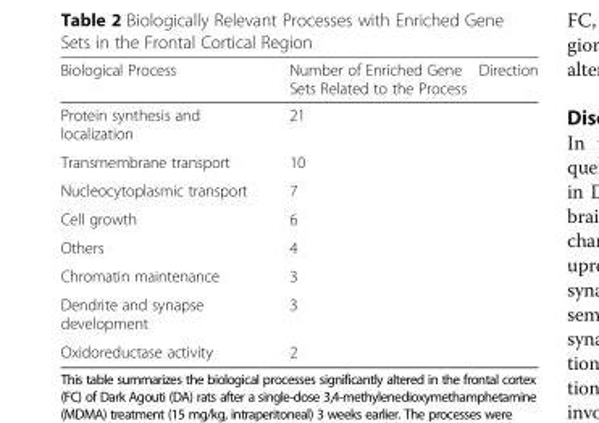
<table><thead><tr><td>Biological Process</td><td>Number of Enriched Gene Sets Related to the Process</td><td>Direction</td></tr></thead><tbody><tr><td>Protein synthesis and localization</td><td>21</td><td></td></tr><tr><td>Transmembrane transport</td><td>10</td><td></td></tr><tr><td>Nucleocytoplasmic transport</td><td>7</td><td></td></tr><tr><td>Cell growth</td><td>6</td><td></td></tr><tr><td>Others</td><td>4</td><td></td></tr><tr><td>Chromatin maintenance</td><td>3</td><td></td></tr><tr><td>Dendrite and synapse development</td><td>3</td><td></td></tr><tr><td>Oxidoreductase activity</td><td>2</td><td></td></tr></tbody></table>